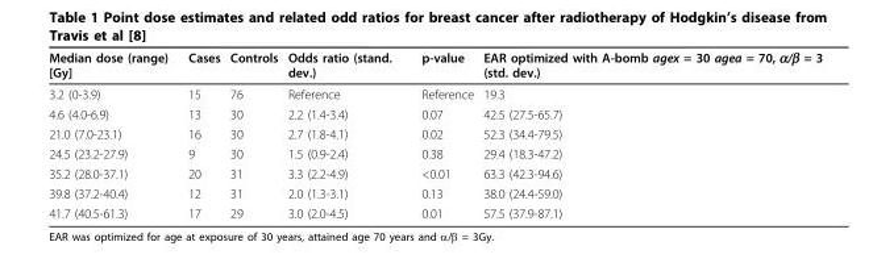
<table><thead><tr><td>Median dose (range) [Gy]</td><td>Cases</td><td>Controls</td><td>Odds ratio (stand. dev.)</td><td>p-value</td><td>EAR optimized with A-bomb agex = 30 agea = 70, α/β = 3 (std. dev.)</td></tr></thead><tbody><tr><td>3.2 (0-3.9)</td><td>15</td><td>76</td><td>Reference</td><td>Reference</td><td>19.3</td></tr><tr><td>4.6 (4.0-6.9)</td><td>13</td><td>30</td><td>2.2 (1.4-3.4)</td><td>0.07</td><td>42.5 (27.5-65.7)</td></tr><tr><td>21.0 (7.0-23.1)</td><td>16</td><td>30</td><td>2.7 (1.8-4.1)</td><td>0.02</td><td>52.3 (34.4-79.5)</td></tr><tr><td>24.5 (23.2-27.9)</td><td>9</td><td>30</td><td>1.5 (0.9-2.4)</td><td>0.38</td><td>29.4 (18.3-47.2)</td></tr><tr><td>35.2 (28.0-37.1)</td><td>20</td><td>31</td><td>3.3 (2.2-4.9)</td><td>&lt;0.01</td><td>63.3 (42.3-94.6)</td></tr><tr><td>39.8 (37.2-40.4)</td><td>12</td><td>31</td><td>2.0 (1.3-3.1)</td><td>0.13</td><td>38.0 (24.4-59.0)</td></tr><tr><td>41.7 (40.5-61.3)</td><td>17</td><td>29</td><td>3.0 (2.0-4.5)</td><td>0.01</td><td>57.5 (37.9-87.1)</td></tr></tbody></table>